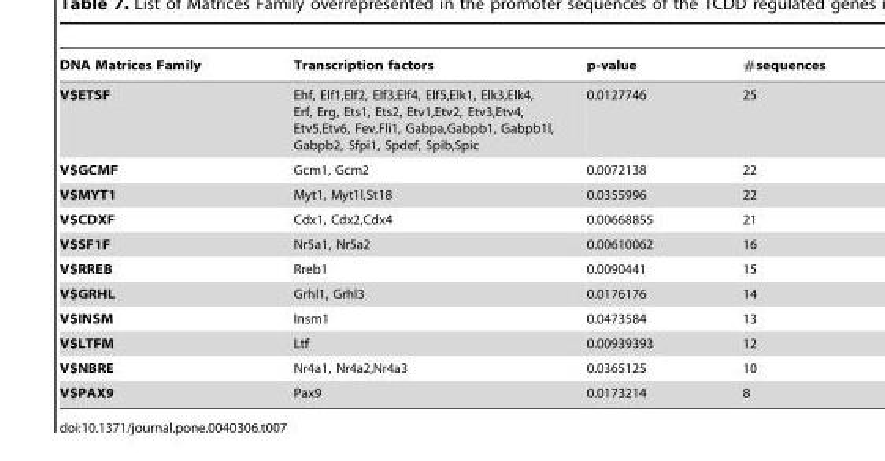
<table><thead><tr><td>DNA Matrices Family</td><td>Transcription factors</td><td>p-value</td><td>#sequences</td></tr></thead><tbody><tr><td>V$ETSF</td><td>Ehf, Elf1,Elf2, Elf3,Elf4, Elf5,Elk1, Elk3,Elk4, Erf, Erg, Ets1, Ets2, Etv1,Etv2, Etv3,Etv4, Etv5,Etv6, Fev,Fli1, Gabpa,Gabpb1, Gabpb1l, Gabpb2, Sfpi1, Spdef, Spib,Spic</td><td>0.0127746</td><td>25</td></tr><tr><td>V$GCMF</td><td>Gcm1, Gcm2</td><td>0.0072138</td><td>22</td></tr><tr><td>V$MYT1</td><td>Myt1, Myt1l,St18</td><td>0.0355996</td><td>22</td></tr><tr><td>V$CDXF</td><td>Cdx1, Cdx2,Cdx4</td><td>0.00668855</td><td>21</td></tr><tr><td>V$SF1F</td><td>Nr5a1, Nr5a2</td><td>0.00610062</td><td>16</td></tr><tr><td>V$RREB</td><td>Rreb1</td><td>0.0090441</td><td>15</td></tr><tr><td>V$GRHL</td><td>Grhl1, Grhl3</td><td>0.0176176</td><td>14</td></tr><tr><td>V$INSM</td><td>Insm1</td><td>0.0473584</td><td>13</td></tr><tr><td>V$LTFM</td><td>Ltf</td><td>0.00939393</td><td>12</td></tr><tr><td>V$NBRE</td><td>Nr4a1, Nr4a2,Nr4a3</td><td>0.0365125</td><td>10</td></tr><tr><td>V$PAX9</td><td>Pax9</td><td>0.0173214</td><td>8</td></tr></tbody></table>